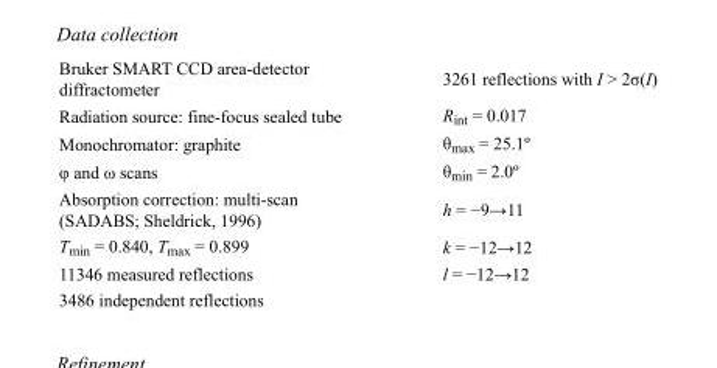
<table><tbody><tr><td>Bruker SMART CCD area-detector diffractometer</td><td>3261 reflections with I &gt; 2σ(I)</td></tr><tr><td>Radiation source: fine-focus sealed tube</td><td>R<sub>int</sub> = 0.017</td></tr><tr><td>Monochromator: graphite</td><td>θ<sub>max</sub> = 25.1º</td></tr><tr><td>φ and ω scans</td><td>θ<sub>min</sub> = 2.0º</td></tr><tr><td>Absorption correction: multi-scan (SADABS; Sheldrick, 1996)</td><td>h = −9→11</td></tr><tr><td>T<sub>min</sub> = 0.840, T<sub>max</sub> = 0.899</td><td>k = −12→12</td></tr><tr><td>11346 measured reflections</td><td>l = −12→12</td></tr><tr><td>3486 independent reflections</td><td></td></tr></tbody></table>